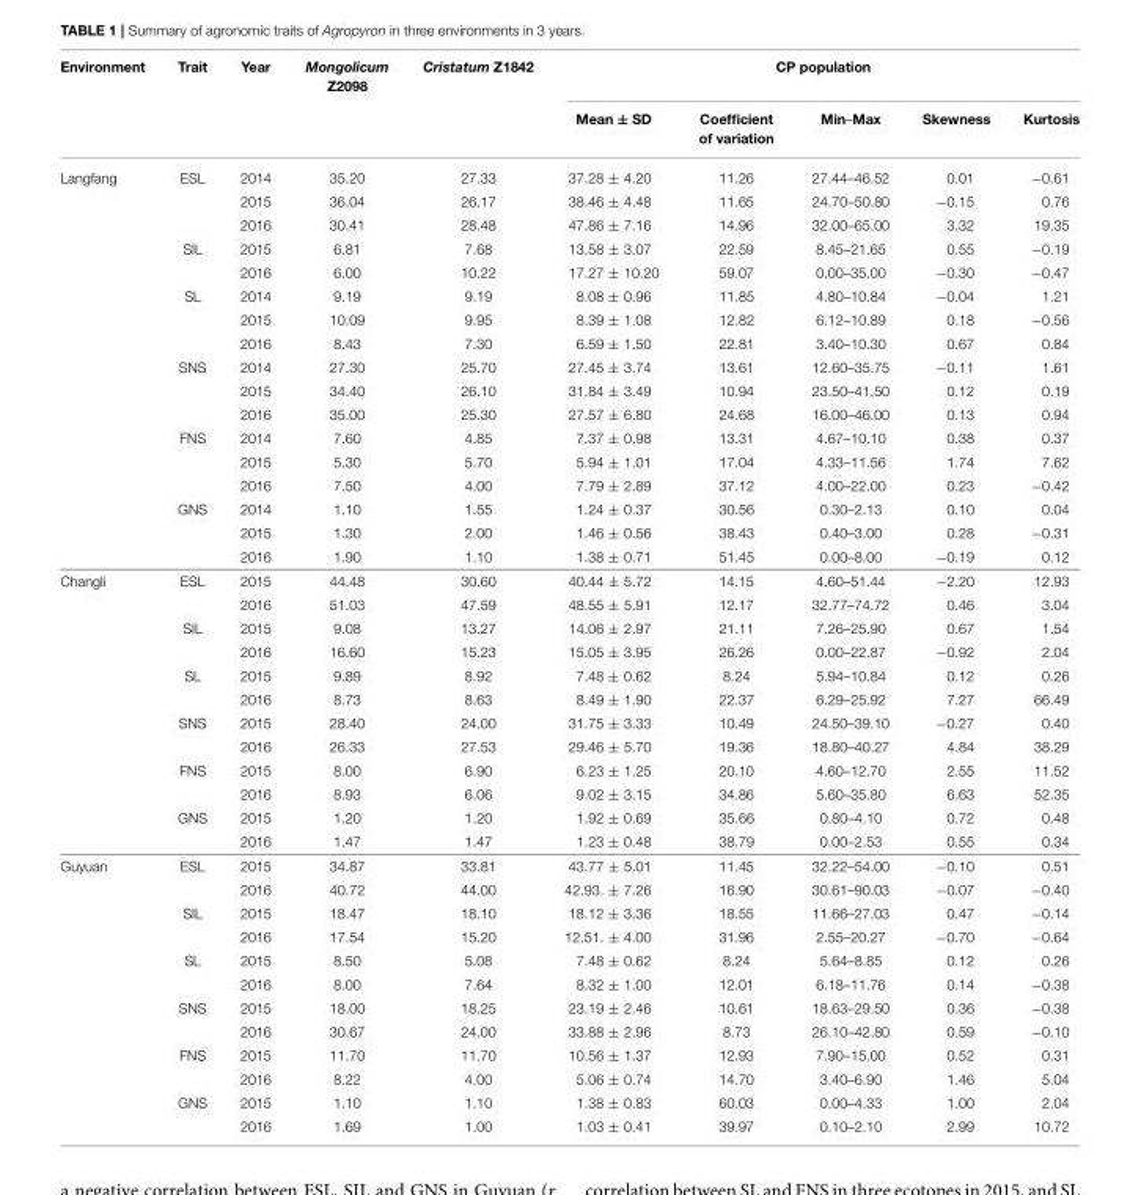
<table><thead><tr><td rowspan="2">Environment</td><td rowspan="2">Trait</td><td rowspan="2">Year</td><td rowspan="2">Mongolicum Z2098</td><td rowspan="2">Cristatum Z1842</td><td colspan="5">CP population</td></tr><tr><td>Mean ± SD</td><td>Coefficient of variation</td><td>Min–Max</td><td>Skewness</td><td>Kurtosis</td></tr></thead><tbody><tr><td rowspan="17">Langfang</td><td>ESL</td><td>2014</td><td>35.20</td><td>27.33</td><td>37.28 ± 4.20</td><td>11.26</td><td>27.44–46.52</td><td>0.01</td><td>−0.61</td></tr><tr><td></td><td>2015</td><td>36.04</td><td>26.17</td><td>38.46 ± 4.48</td><td>11.65</td><td>24.70–50.80</td><td>−0.15</td><td>0.76</td></tr><tr><td></td><td>2016</td><td>30.41</td><td>28.48</td><td>47.86 ± 7.16</td><td>14.96</td><td>32.00–65.00</td><td>3.32</td><td>19.35</td></tr><tr><td>SIL</td><td>2015</td><td>6.81</td><td>7.68</td><td>13.58 ± 3.07</td><td>22.59</td><td>8.45–21.65</td><td>0.55</td><td>−0.19</td></tr><tr><td></td><td>2016</td><td>6.00</td><td>10.22</td><td>17.27 ± 10.20</td><td>59.07</td><td>0.00–35.00</td><td>−0.30</td><td>−0.47</td></tr><tr><td>SL</td><td>2014</td><td>9.19</td><td>9.19</td><td>8.08 ± 0.96</td><td>11.85</td><td>4.80–10.84</td><td>−0.04</td><td>1.21</td></tr><tr><td></td><td>2015</td><td>10.09</td><td>9.95</td><td>8.39 ± 1.08</td><td>12.82</td><td>6.12–10.89</td><td>0.18</td><td>−0.56</td></tr><tr><td></td><td>2016</td><td>8.43</td><td>7.30</td><td>6.59 ± 1.50</td><td>22.81</td><td>3.40–10.30</td><td>0.67</td><td>0.84</td></tr><tr><td>SNS</td><td>2014</td><td>27.30</td><td>25.70</td><td>27.45 ± 3.74</td><td>13.61</td><td>12.60–35.75</td><td>−0.11</td><td>1.61</td></tr><tr><td></td><td>2015</td><td>34.40</td><td>26.10</td><td>31.84 ± 3.49</td><td>10.94</td><td>23.50–41.50</td><td>0.12</td><td>0.19</td></tr><tr><td></td><td>2016</td><td>35.00</td><td>25.30</td><td>27.57 ± 6.80</td><td>24.68</td><td>16.00–46.00</td><td>0.13</td><td>0.94</td></tr><tr><td>FNS</td><td>2014</td><td>7.60</td><td>4.85</td><td>7.37 ± 0.98</td><td>13.31</td><td>4.67–10.10</td><td>0.38</td><td>0.37</td></tr><tr><td></td><td>2015</td><td>5.30</td><td>5.70</td><td>5.94 ± 1.01</td><td>17.04</td><td>4.33–11.56</td><td>1.74</td><td>7.62</td></tr><tr><td></td><td>2016</td><td>7.50</td><td>4.00</td><td>7.79 ± 2.89</td><td>37.12</td><td>4.00–22.00</td><td>0.23</td><td>−0.42</td></tr><tr><td>GNS</td><td>2014</td><td>1.10</td><td>1.55</td><td>1.24 ± 0.37</td><td>30.56</td><td>0.30–2.13</td><td>0.10</td><td>0.04</td></tr><tr><td></td><td>2015</td><td>1.30</td><td>2.00</td><td>1.46 ± 0.56</td><td>38.43</td><td>0.40–3.00</td><td>0.28</td><td>−0.31</td></tr><tr><td></td><td>2016</td><td>1.90</td><td>1.10</td><td>1.38 ± 0.71</td><td>51.45</td><td>0.00–8.00</td><td>−0.19</td><td>0.12</td></tr><tr><td rowspan="12">Changli</td><td>ESL</td><td>2015</td><td>44.48</td><td>30.60</td><td>40.44 ± 5.72</td><td>14.15</td><td>4.60–51.44</td><td>−2.20</td><td>12.93</td></tr><tr><td></td><td>2016</td><td>51.03</td><td>47.59</td><td>48.55 ± 5.91</td><td>12.17</td><td>32.77–74.72</td><td>0.46</td><td>3.04</td></tr><tr><td>SIL</td><td>2015</td><td>9.08</td><td>13.27</td><td>14.06 ± 2.97</td><td>21.11</td><td>7.26–25.90</td><td>0.67</td><td>1.54</td></tr><tr><td></td><td>2016</td><td>16.60</td><td>15.23</td><td>15.05 ± 3.95</td><td>26.26</td><td>0.00–22.87</td><td>−0.92</td><td>2.04</td></tr><tr><td>SL</td><td>2015</td><td>9.89</td><td>8.92</td><td>7.48 ± 0.62</td><td>8.24</td><td>5.94–10.84</td><td>0.12</td><td>0.26</td></tr><tr><td></td><td>2016</td><td>8.73</td><td>8.63</td><td>8.49 ± 1.90</td><td>22.37</td><td>6.29–25.92</td><td>7.27</td><td>66.49</td></tr><tr><td>SNS</td><td>2015</td><td>28.40</td><td>24.00</td><td>31.75 ± 3.33</td><td>10.49</td><td>24.50–39.10</td><td>−0.27</td><td>0.40</td></tr><tr><td></td><td>2016</td><td>26.33</td><td>27.53</td><td>29.46 ± 5.70</td><td>19.36</td><td>18.80–40.27</td><td>4.84</td><td>38.29</td></tr><tr><td>FNS</td><td>2015</td><td>8.00</td><td>6.90</td><td>6.23 ± 1.25</td><td>20.10</td><td>4.60–12.70</td><td>2.55</td><td>11.52</td></tr><tr><td></td><td>2016</td><td>8.93</td><td>6.06</td><td>9.02 ± 3.15</td><td>34.86</td><td>5.60–35.80</td><td>6.63</td><td>52.35</td></tr><tr><td>GNS</td><td>2015</td><td>1.20</td><td>1.20</td><td>1.92 ± 0.69</td><td>35.66</td><td>0.80–4.10</td><td>0.72</td><td>0.48</td></tr><tr><td></td><td>2016</td><td>1.47</td><td>1.47</td><td>1.23 ± 0.48</td><td>38.79</td><td>0.00–2.53</td><td>0.55</td><td>0.34</td></tr><tr><td rowspan="12">Guyuan</td><td>ESL</td><td>2015</td><td>34.87</td><td>33.81</td><td>43.77 ± 5.01</td><td>11.45</td><td>32.22–54.00</td><td>−0.10</td><td>0.51</td></tr><tr><td></td><td>2016</td><td>40.72</td><td>44.00</td><td>42.93. ± 7.26</td><td>16.90</td><td>30.61–90.03</td><td>−0.07</td><td>−0.40</td></tr><tr><td>SIL</td><td>2015</td><td>18.47</td><td>18.10</td><td>18.12 ± 3.36</td><td>18.55</td><td>11.66–27.03</td><td>0.47</td><td>−0.14</td></tr><tr><td></td><td>2016</td><td>17.54</td><td>15.20</td><td>12.51. ± 4.00</td><td>31.96</td><td>2.55–20.27</td><td>−0.70</td><td>−0.64</td></tr><tr><td>SL</td><td>2015</td><td>8.50</td><td>5.08</td><td>7.48 ± 0.62</td><td>8.24</td><td>5.64–8.85</td><td>0.12</td><td>0.26</td></tr><tr><td></td><td>2016</td><td>8.00</td><td>7.64</td><td>8.32 ± 1.00</td><td>12.01</td><td>6.18–11.76</td><td>0.14</td><td>−0.38</td></tr><tr><td>SNS</td><td>2015</td><td>18.00</td><td>18.25</td><td>23.19 ± 2.46</td><td>10.61</td><td>18.63–29.50</td><td>0.36</td><td>−0.38</td></tr><tr><td></td><td>2016</td><td>30.67</td><td>24.00</td><td>33.88 ± 2.96</td><td>8.73</td><td>26.10–42.80</td><td>0.59</td><td>−0.10</td></tr><tr><td>FNS</td><td>2015</td><td>11.70</td><td>11.70</td><td>10.56 ± 1.37</td><td>12.93</td><td>7.90–15.00</td><td>0.52</td><td>0.31</td></tr><tr><td></td><td>2016</td><td>8.22</td><td>4.00</td><td>5.06 ± 0.74</td><td>14.70</td><td>3.40–6.90</td><td>1.46</td><td>5.04</td></tr><tr><td>GNS</td><td>2015</td><td>1.10</td><td>1.10</td><td>1.38 ± 0.83</td><td>60.03</td><td>0.00–4.33</td><td>1.00</td><td>2.04</td></tr><tr><td></td><td>2016</td><td>1.69</td><td>1.00</td><td>1.03 ± 0.41</td><td>39.97</td><td>0.10–2.10</td><td>2.99</td><td>10.72</td></tr></tbody></table>